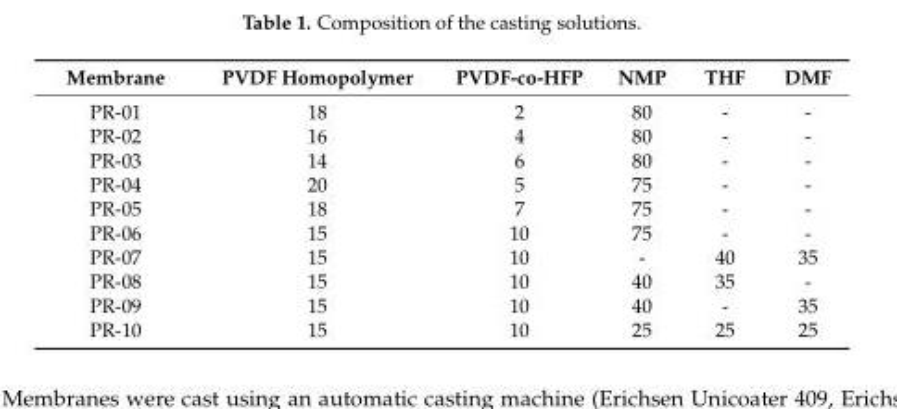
<table><thead><tr><td>Membrane</td><td>PVDF Homopolymer</td><td>PVDF-co-HFP</td><td>NMP</td><td>THF</td><td>DMF</td></tr></thead><tbody><tr><td>PR-01</td><td>18</td><td>2</td><td>80</td><td>-</td><td>-</td></tr><tr><td>PR-02</td><td>16</td><td>4</td><td>80</td><td>-</td><td>-</td></tr><tr><td>PR-03</td><td>14</td><td>6</td><td>80</td><td>-</td><td>-</td></tr><tr><td>PR-04</td><td>20</td><td>5</td><td>75</td><td>-</td><td>-</td></tr><tr><td>PR-05</td><td>18</td><td>7</td><td>75</td><td>-</td><td>-</td></tr><tr><td>PR-06</td><td>15</td><td>10</td><td>75</td><td>-</td><td>-</td></tr><tr><td>PR-07</td><td>15</td><td>10</td><td>-</td><td>40</td><td>35</td></tr><tr><td>PR-08</td><td>15</td><td>10</td><td>40</td><td>35</td><td>-</td></tr><tr><td>PR-09</td><td>15</td><td>10</td><td>40</td><td>-</td><td>35</td></tr><tr><td>PR-10</td><td>15</td><td>10</td><td>25</td><td>25</td><td>25</td></tr></tbody></table>